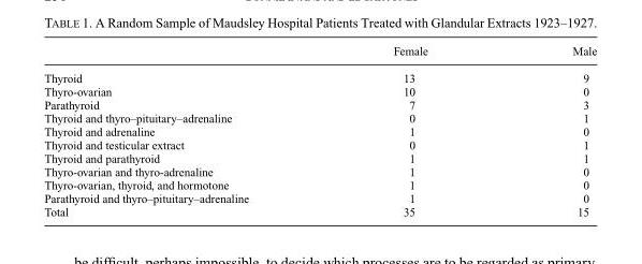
<table><thead><tr><td></td><td>Female</td><td>Male</td></tr></thead><tbody><tr><td>Thyroid</td><td>13</td><td>9</td></tr><tr><td>Thyro-ovarian</td><td>10</td><td>0</td></tr><tr><td>Parathyroid</td><td>7</td><td>3</td></tr><tr><td>Thyroid and thyro–pituitary–adrenaline</td><td>0</td><td>1</td></tr><tr><td>Thyroid and adrenaline</td><td>1</td><td>0</td></tr><tr><td>Thyroid and testicular extract</td><td>0</td><td>1</td></tr><tr><td>Thyroid and parathyroid</td><td>1</td><td>1</td></tr><tr><td>Thyro-ovarian and thyro-adrenaline</td><td>1</td><td>0</td></tr><tr><td>Thyro-ovarian, thyroid, and hormotone</td><td>1</td><td>0</td></tr><tr><td>Parathyroid and thyro–pituitary–adrenaline</td><td>1</td><td>0</td></tr><tr><td>Total</td><td>35</td><td>15</td></tr></tbody></table>